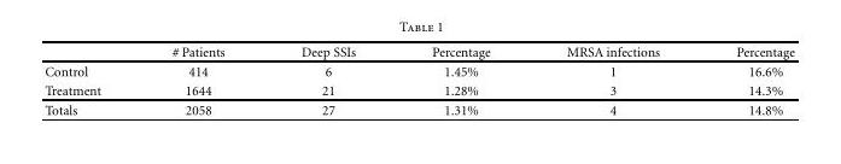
<table><thead><tr><td></td><td># Patients</td><td>Deep SSIs</td><td>Percentage</td><td>MRSA infections</td><td>Percentage</td></tr></thead><tbody><tr><td>Control</td><td>414</td><td>6</td><td>1.45%</td><td>1</td><td>16.6%</td></tr><tr><td>Treatment</td><td>1644</td><td>21</td><td>1.28%</td><td>3</td><td>14.3%</td></tr><tr><td>Totals</td><td>2058</td><td>27</td><td>1.31%</td><td>4</td><td>14.8%</td></tr></tbody></table>